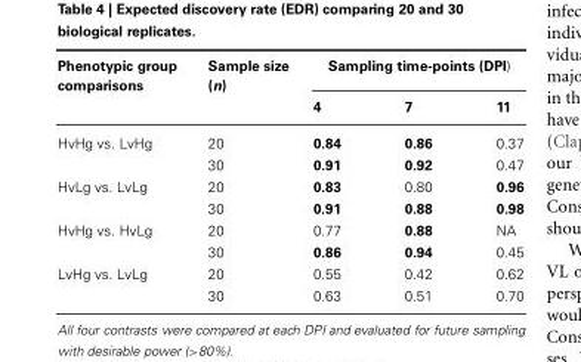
<table><thead><tr><td rowspan="2">Phenotypic group comparisons</td><td rowspan="2">Sample size (n)</td><td colspan="3">Sampling time-points (DPI)</td></tr><tr><td>4</td><td>7</td><td>11</td></tr></thead><tbody><tr><td rowspan="2">HvHg vs. LvHg</td><td>20</td><td>0.84</td><td>0.86</td><td>0.37</td></tr><tr><td>30</td><td>0.91</td><td>0.92</td><td>0.47</td></tr><tr><td rowspan="2">HvLg vs. LvLg</td><td>20</td><td>0.83</td><td>0.80</td><td>0.96</td></tr><tr><td>30</td><td>0.91</td><td>0.88</td><td>0.98</td></tr><tr><td rowspan="2">HvHg vs. HvLg</td><td>20</td><td>0.77</td><td>0.88</td><td>NA</td></tr><tr><td>30</td><td>0.86</td><td>0.94</td><td>0.45</td></tr><tr><td rowspan="2">LvHg vs. LvLg</td><td>20</td><td>0.55</td><td>0.42</td><td>0.62</td></tr><tr><td>30</td><td>0.63</td><td>0.51</td><td>0.70</td></tr></tbody></table>